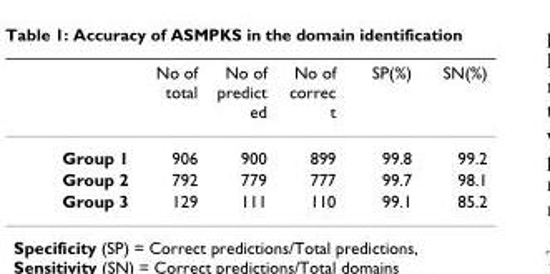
<table><thead><tr><td></td><td>No of total</td><td>No of predict ed</td><td>No of correc t</td><td>SP(%)</td><td>SN(%)</td></tr></thead><tbody><tr><td>Group 1</td><td>906</td><td>900</td><td>899</td><td>99.8</td><td>99.2</td></tr><tr><td>Group 2</td><td>792</td><td>779</td><td>777</td><td>99.7</td><td>98.1</td></tr><tr><td>Group 3</td><td>129</td><td>111</td><td>110</td><td>99.1</td><td>85.2</td></tr></tbody></table>